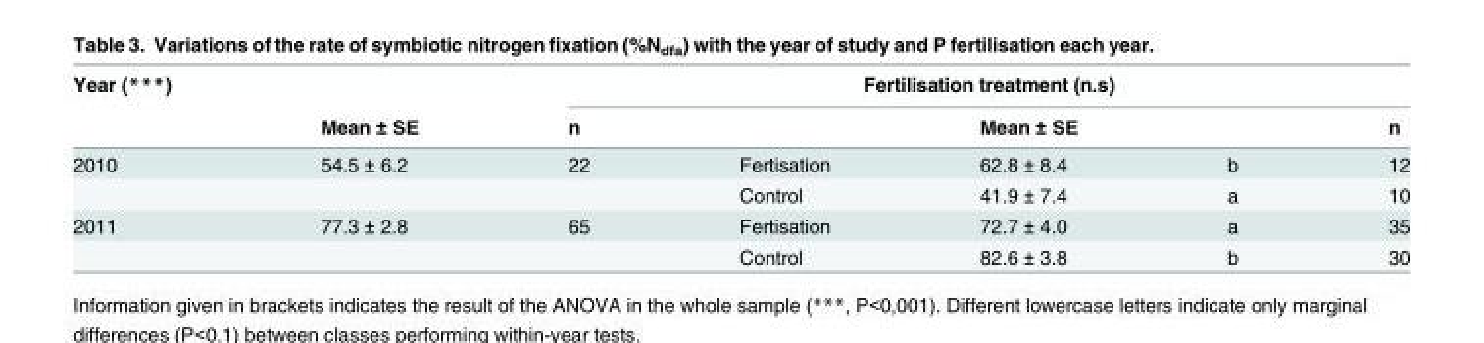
<table><thead><tr><td rowspan="2">Year (***)</td><td rowspan="2">Mean ± SE</td><td colspan="5">Fertilisation treatment (n.s)</td></tr><tr><td>n</td><td></td><td>Mean ± SE</td><td></td><td>n</td></tr></thead><tbody><tr><td rowspan="2">2010</td><td>54.5 ± 6.2</td><td>22</td><td>Fertisation</td><td>62.8 ± 8.4</td><td>b</td><td>12</td></tr><tr><td></td><td></td><td>Control</td><td>41.9 ± 7.4</td><td>a</td><td>10</td></tr><tr><td rowspan="2">2011</td><td>77.3 ± 2.8</td><td>65</td><td>Fertisation</td><td>72.7 ± 4.0</td><td>a</td><td>35</td></tr><tr><td></td><td></td><td>Control</td><td>82.6 ± 3.8</td><td>b</td><td>30</td></tr></tbody></table>